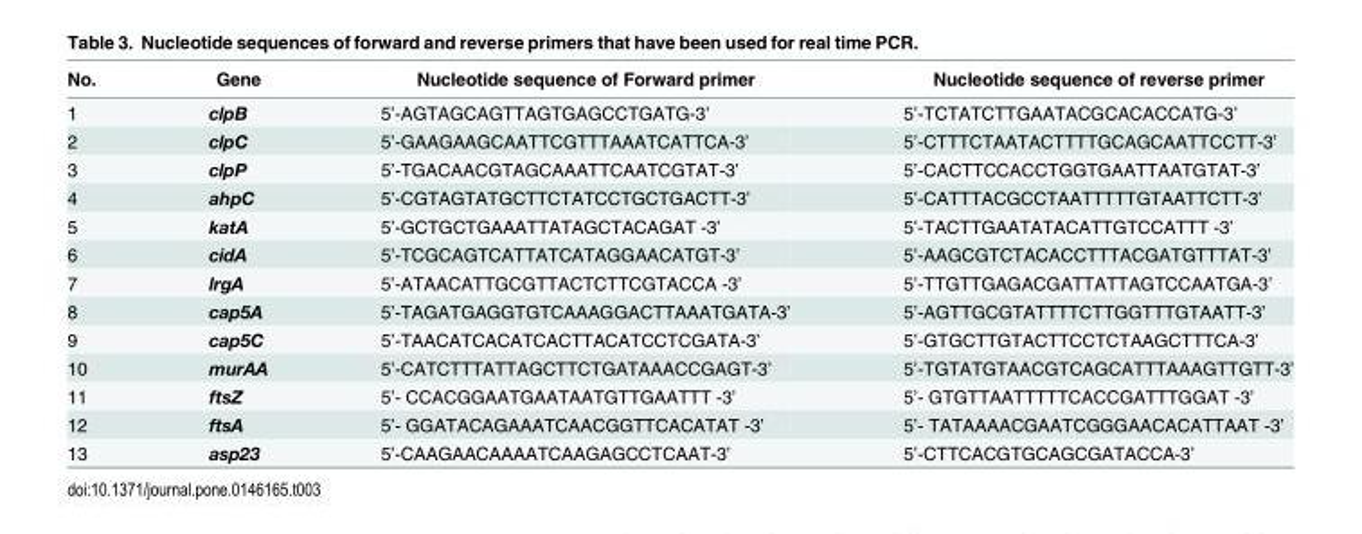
<table><thead><tr><td>No.</td><td>Gene</td><td>Nucleotide sequence of Forward primer</td><td>Nucleotide sequence of reverse primer</td></tr></thead><tbody><tr><td>1</td><td>clpB</td><td>5’-AGTAGCAGTTAGTGAGCCTGATG-3’</td><td>5’-TCTATCTTGAATACGCACACCATG-3’</td></tr><tr><td>2</td><td>clpC</td><td>5’-GAAGAAGCAATTCGTTTAAATCATTCA-3’</td><td>5’-CTTTCTAATACTTTTGCAGCAATTCCTT-3’</td></tr><tr><td>3</td><td>clpP</td><td>5’-TGACAACGTAGCAAATTCAATCGTAT-3’</td><td>5’-CACTTCCACCTGGTGAATTAATGTAT-3’</td></tr><tr><td>4</td><td>ahpC</td><td>5’-CGTAGTATGCTTCTATCCTGCTGACTT-3’</td><td>5’-CATTTACGCCTAATTTTTGTAATTCTT-3’</td></tr><tr><td>5</td><td>katA</td><td>5’-GCTGCTGAAATTATAGCTACAGAT -3’</td><td>5’-TACTTGAATATACATTGTCCATTT -3’</td></tr><tr><td>6</td><td>cidA</td><td>5’-TCGCAGTCATTATCATAGGAACATGT-3’</td><td>5’-AAGCGTCTACACCTTTACGATGTTTAT-3’</td></tr><tr><td>7</td><td>lrgA</td><td>5’-ATAACATTGCGTTACTCTTCGTACCA -3’</td><td>5’-TTGTTGAGACGATTATTAGTCCAATGA-3’</td></tr><tr><td>8</td><td>cap5A</td><td>5’-TAGATGAGGTGTCAAAGGACTTAAATGATA-3’</td><td>5’-AGTTGCGTATTTTCTTGGTTTGTAATT-3’</td></tr><tr><td>9</td><td>cap5C</td><td>5’-TAACATCACATCACTTACATCCTCGATA-3’</td><td>5’-GTGCTTGTACTTCCTCTAAGCTTTCA-3’</td></tr><tr><td>10</td><td>murAA</td><td>5’-CATCTTTATTAGCTTCTGATAAACCGAGT-3’</td><td>5’-TGTATGTAACGTCAGCATTTAAAGTTGTT-3’</td></tr><tr><td>11</td><td>ftsZ</td><td>5’- CCACGGAATGAATAATGTTGAATTT -3’</td><td>5’- GTGTTAATTTTTCACCGATTTGGAT -3’</td></tr><tr><td>12</td><td>ftsA</td><td>5’- GGATACAGAAATCAACGGTTCACATAT -3’</td><td>5’- TATAAAACGAATCGGGAACACATTAAT -3’</td></tr><tr><td>13</td><td>asp23</td><td>5’-CAAGAACAAAATCAAGAGCCTCAAT-3’</td><td>5’-CTTCACGTGCAGCGATACCA-3’</td></tr></tbody></table>